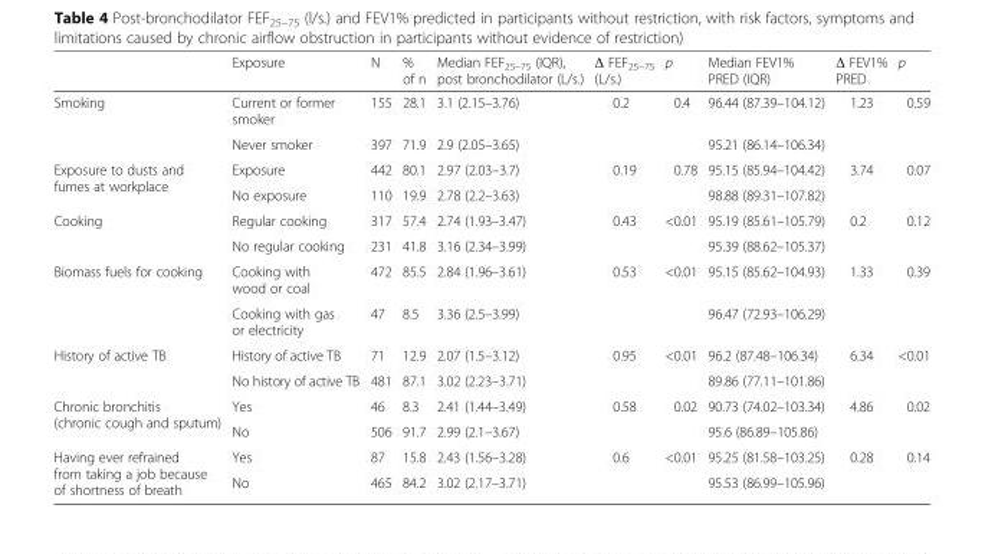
<table><thead><tr><td></td><td>Exposure</td><td>N</td><td>% of n</td><td>Median FEF<sub>25–75</sub> (IQR), post bronchodilator (L/s.)</td><td>Δ FEF<sub>25–75</sub> (L/s.)</td><td>p</td><td>Median FEV1% PRED (IQR)</td><td>Δ FEV1% PRED</td><td>p</td></tr></thead><tbody><tr><td rowspan="2">Smoking</td><td>Current or former smoker</td><td>155</td><td>28.1</td><td>3.1 (2.15–3.76)</td><td>0.2</td><td>0.4</td><td>96.44 (87.39–104.12)</td><td>1.23</td><td>0.59</td></tr><tr><td>Never smoker</td><td>397</td><td>71.9</td><td>2.9 (2.05–3.65)</td><td></td><td></td><td>95.21 (86.14–106.34)</td><td></td><td></td></tr><tr><td rowspan="2">Exposure to dusts and fumes at workplace</td><td>Exposure</td><td>442</td><td>80.1</td><td>2.97 (2.03–3.7)</td><td>0.19</td><td>0.78</td><td>95.15 (85.94–104.42)</td><td>3.74</td><td>0.07</td></tr><tr><td>No exposure</td><td>110</td><td>19.9</td><td>2.78 (2.2–3.63)</td><td></td><td></td><td>98.88 (89.31–107.82)</td><td></td><td></td></tr><tr><td rowspan="2">Cooking</td><td>Regular cooking</td><td>317</td><td>57.4</td><td>2.74 (1.93–3.47)</td><td>0.43</td><td>&lt;0.01</td><td>95.19 (85.61–105.79)</td><td>0.2</td><td>0.12</td></tr><tr><td>No regular cooking</td><td>231</td><td>41.8</td><td>3.16 (2.34–3.99)</td><td></td><td></td><td>95.39 (88.62–105.37)</td><td></td><td></td></tr><tr><td rowspan="2">Biomass fuels for cooking</td><td>Cooking with wood or coal</td><td>472</td><td>85.5</td><td>2.84 (1.96–3.61)</td><td>0.53</td><td>&lt;0.01</td><td>95.15 (85.62–104.93)</td><td>1.33</td><td>0.39</td></tr><tr><td>Cooking with gas or electricity</td><td>47</td><td>8.5</td><td>3.36 (2.5–3.99)</td><td></td><td></td><td>96.47 (72.93–106.29)</td><td></td><td></td></tr><tr><td rowspan="2">History of active TB</td><td>History of active TB</td><td>71</td><td>12.9</td><td>2.07 (1.5–3.12)</td><td>0.95</td><td>&lt;0.01</td><td>96.2 (87.48–106.34)</td><td>6.34</td><td>&lt;0.01</td></tr><tr><td>No history of active TB</td><td>481</td><td>87.1</td><td>3.02 (2.23–3.71)</td><td></td><td></td><td>89.86 (77.11–101.86)</td><td></td><td></td></tr><tr><td rowspan="2">Chronic bronchitis (chronic cough and sputum)</td><td>Yes</td><td>46</td><td>8.3</td><td>2.41 (1.44–3.49)</td><td>0.58</td><td>0.02</td><td>90.73 (74.02–103.34)</td><td>4.86</td><td>0.02</td></tr><tr><td>No</td><td>506</td><td>91.7</td><td>2.99 (2.1–3.67)</td><td></td><td></td><td>95.6 (86.89–105.86)</td><td></td><td></td></tr><tr><td rowspan="2">Having ever refrained from taking a job because of shortness of breath</td><td>Yes</td><td>87</td><td>15.8</td><td>2.43 (1.56–3.28)</td><td>0.6</td><td>&lt;0.01</td><td>95.25 (81.58–103.25)</td><td>0.28</td><td>0.14</td></tr><tr><td>No</td><td>465</td><td>84.2</td><td>3.02 (2.17–3.71)</td><td></td><td></td><td>95.53 (86.99–105.96)</td><td></td><td></td></tr></tbody></table>